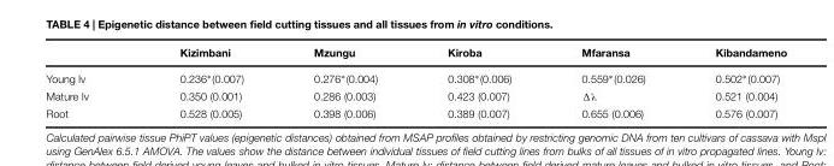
<table><thead><tr><td></td><td>Kizimbani</td><td>Mzungu</td><td>Kiroba</td><td>Mfaransa</td><td>Kibandameno</td></tr></thead><tbody><tr><td>Young lv</td><td>0.236∗(0.007)</td><td>0.276∗(0.004)</td><td>0.308∗(0.006)</td><td>0.559∗(0.026)</td><td>0.502∗(0.007)</td></tr><tr><td>Mature lv</td><td>0.350 (0.001)</td><td>0.286 (0.003)</td><td>0.423 (0.007)</td><td>Δλ</td><td>0.521 (0.004)</td></tr><tr><td>Root</td><td>0.528 (0.005)</td><td>0.398 (0.006)</td><td>0.389 (0.007)</td><td>0.655 (0.006)</td><td>0.576 (0.007)</td></tr></tbody></table>